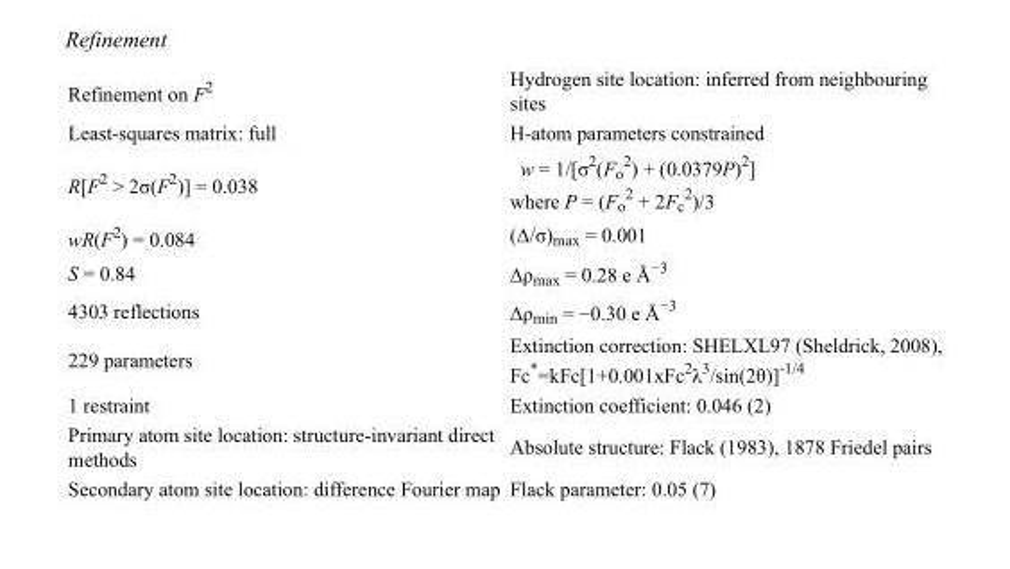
<table><tbody><tr><td>Refinement on F<sup>2</sup></td><td>Hydrogen site location: inferred from neighbouring sites</td></tr><tr><td>Least-squares matrix: full</td><td>H-atom parameters constrained</td></tr><tr><td>R[F<sup>2</sup> &gt; 2σ(F<sup>2</sup>)] = 0.038</td><td>w = 1/[σ<sup>2</sup>(F<sub>o</sub> <sup>2</sup>) + (0.0379P)<sup>2</sup>] where P = (F<sub>o</sub> <sup>2</sup> + 2F<sub>c</sub> <sup>2</sup>)/3</td></tr><tr><td>wR(F<sup>2</sup>) = 0.084</td><td>(Δ/σ)<sub>max</sub> = 0.001</td></tr><tr><td>S = 0.84</td><td>Δρ<sub>max</sub> = 0.28 e Å<sup>−3</sup></td></tr><tr><td>4303 reflections</td><td>Δρ<sub>min</sub> = −0.30 e Å<sup>−3</sup></td></tr><tr><td>229 parameters</td><td>Extinction correction: SHELXL97 (Sheldrick, 2008), Fc*=kFc[1+0.001xFc<sup>2</sup>λ<sup>3</sup>/sin(2θ)]<sup>-1/4</sup></td></tr><tr><td>1 restraint</td><td>Extinction coefficient: 0.046 (2)</td></tr><tr><td>Primary atom site location: structure-invariant direct methods</td><td>Absolute structure: Flack (1983), 1878 Friedel pairs</td></tr><tr><td>Secondary atom site location: difference Fourier map</td><td>Flack parameter: 0.05 (7)</td></tr></tbody></table>